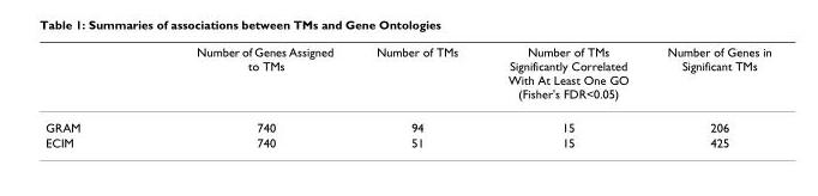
<table><thead><tr><td></td><td>Number of Genes Assigned to TMs</td><td>Number of TMs</td><td>Number of TMs Significantly Correlated With At Least One GO (Fisher&#x27;s FDR&lt;0.05)</td><td>Number of Genes in Significant TMs</td></tr></thead><tbody><tr><td>GRAM</td><td>740</td><td>94</td><td>15</td><td>206</td></tr><tr><td>ECIM</td><td>740</td><td>51</td><td>15</td><td>425</td></tr></tbody></table>